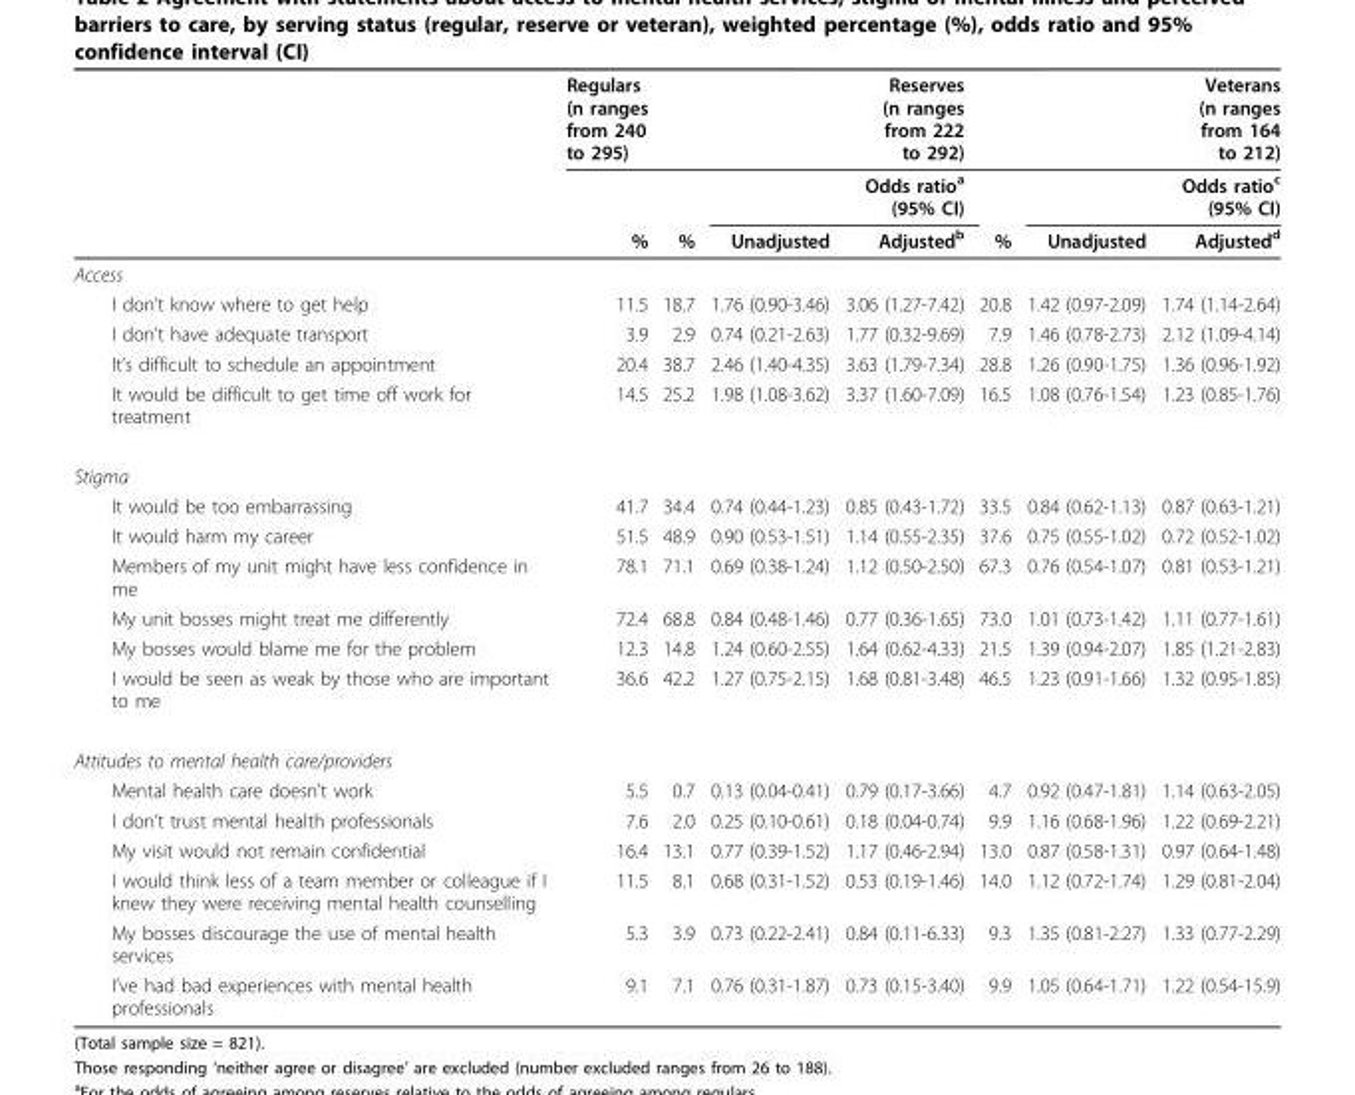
<table><thead><tr><td rowspan="3"></td><td rowspan="3">Regulars (n ranges from 240 to 295) %</td><td rowspan="3">%</td><td rowspan="2" colspan="2">Reserves (n ranges from 222 to 292) Odds ratio<sup>a</sup> (95% CI)</td><td rowspan="3">%</td><td rowspan="2" colspan="2">Veterans (n ranges from 164 to 212) Odds ratio<sup>c</sup> (95% CI)</td></tr><tr></tr><tr><td>Unadjusted</td><td>Adjusted<sup>b</sup></td><td>Unadjusted</td><td>Adjusted<sup>d</sup></td></tr></thead><tbody><tr><td colspan="8">Access</td></tr><tr><td>I don’t know where to get help</td><td>11.5</td><td>18.7</td><td>1.76 (0.90-3.46)</td><td>3.06 (1.27-7.42)</td><td>20.8</td><td>1.42 (0.97-2.09)</td><td>1.74 (1.14-2.64)</td></tr><tr><td>I don’t have adequate transport</td><td>3.9</td><td>2.9</td><td>0.74 (0.21-2.63)</td><td>1.77 (0.32-9.69)</td><td>7.9</td><td>1.46 (0.78-2.73)</td><td>2.12 (1.09-4.14)</td></tr><tr><td>It’s difficult to schedule an appointment</td><td>20.4</td><td>38.7</td><td>2.46 (1.40-4.35)</td><td>3.63 (1.79-7.34)</td><td>28.8</td><td>1.26 (0.90-1.75)</td><td>1.36 (0.96-1.92)</td></tr><tr><td>It would be difficult to get time off work for treatment</td><td>14.5</td><td>25.2</td><td>1.98 (1.08-3.62)</td><td>3.37 (1.60-7.09)</td><td>16.5</td><td>1.08 (0.76-1.54)</td><td>1.23 (0.85-1.76)</td></tr><tr><td colspan="8">Stigma</td></tr><tr><td>It would be too embarrassing</td><td>41.7</td><td>34.4</td><td>0.74 (0.44-1.23)</td><td>0.85 (0.43-1.72)</td><td>33.5</td><td>0.84 (0.62-1.13)</td><td>0.87 (0.63-1.21)</td></tr><tr><td>It would harm my career</td><td>51.5</td><td>48.9</td><td>0.90 (0.53-1.51)</td><td>1.14 (0.55-2.35)</td><td>37.6</td><td>0.75 (0.55-1.02)</td><td>0.72 (0.52-1.02)</td></tr><tr><td>Members of my unit might have less confidence in me</td><td>78.1</td><td>71.1</td><td>0.69 (0.38-1.24)</td><td>1.12 (0.50-2.50)</td><td>67.3</td><td>0.76 (0.54-1.07)</td><td>0.81 (0.53-1.21)</td></tr><tr><td>My unit bosses might treat me differently</td><td>72.4</td><td>68.8</td><td>0.84 (0.48-1.46)</td><td>0.77 (0.36-1.65)</td><td>73.0</td><td>1.01 (0.73-1.42)</td><td>1.11 (0.77-1.61)</td></tr><tr><td>My bosses would blame me for the problem</td><td>12.3</td><td>14.8</td><td>1.24 (0.60-2.55)</td><td>1.64 (0.62-4.33)</td><td>21.5</td><td>1.39 (0.94-2.07)</td><td>1.85 (1.21-2.83)</td></tr><tr><td>I would be seen as weak by those who are important to me</td><td>36.6</td><td>42.2</td><td>1.27 (0.75-2.15)</td><td>1.68 (0.81-3.48)</td><td>46.5</td><td>1.23 (0.91-1.66)</td><td>1.32 (0.95-1.85)</td></tr><tr><td colspan="8">Attitudes to mental health care/providers</td></tr><tr><td>Mental health care doesn’t work</td><td>5.5</td><td>0.7</td><td>0.13 (0.04-0.41)</td><td>0.79 (0.17-3.66)</td><td>4.7</td><td>0.92 (0.47-1.81)</td><td>1.14 (0.63-2.05)</td></tr><tr><td>I don’t trust mental health professionals</td><td>7.6</td><td>2.0</td><td>0.25 (0.10-0.61)</td><td>0.18 (0.04-0.74)</td><td>9.9</td><td>1.16 (0.68-1.96)</td><td>1.22 (0.69-2.21)</td></tr><tr><td>My visit would not remain confidential</td><td>16.4</td><td>13.1</td><td>0.77 (0.39-1.52)</td><td>1.17 (0.46-2.94)</td><td>13.0</td><td>0.87 (0.58-1.31)</td><td>0.97 (0.64-1.48)</td></tr><tr><td>I would think less of a team member or colleague if I knew they were receiving mental health counselling</td><td>11.5</td><td>8.1</td><td>0.68 (0.31-1.52)</td><td>0.53 (0.19-1.46)</td><td>14.0</td><td>1.12 (0.72-1.74)</td><td>1.29 (0.81-2.04)</td></tr><tr><td>My bosses discourage the use of mental health services</td><td>5.3</td><td>3.9</td><td>0.73 (0.22-2.41)</td><td>0.84 (0.11-6.33)</td><td>9.3</td><td>1.35 (0.81-2.27)</td><td>1.33 (0.77-2.29)</td></tr><tr><td>I’ve had bad experiences with mental health professionals</td><td>9.1</td><td>7.1</td><td>0.76 (0.31-1.87)</td><td>0.73 (0.15-3.40)</td><td>9.9</td><td>1.05 (0.64-1.71)</td><td>1.22 (0.54-15.9)</td></tr></tbody></table>